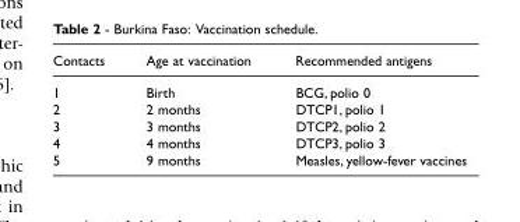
<table><thead><tr><td>Contacts</td><td>Age at vaccination</td><td>Recommended antigens</td></tr></thead><tbody><tr><td>1</td><td>Birth</td><td>BCG, polio 0</td></tr><tr><td>2</td><td>2 months</td><td>DTCP1, polio 1</td></tr><tr><td>3</td><td>3 months</td><td>DTCP2, polio 2</td></tr><tr><td>4</td><td>4 months</td><td>DTCP3, polio 3</td></tr><tr><td>5</td><td>9 months</td><td>Measles, yellow-fever vaccines</td></tr></tbody></table>